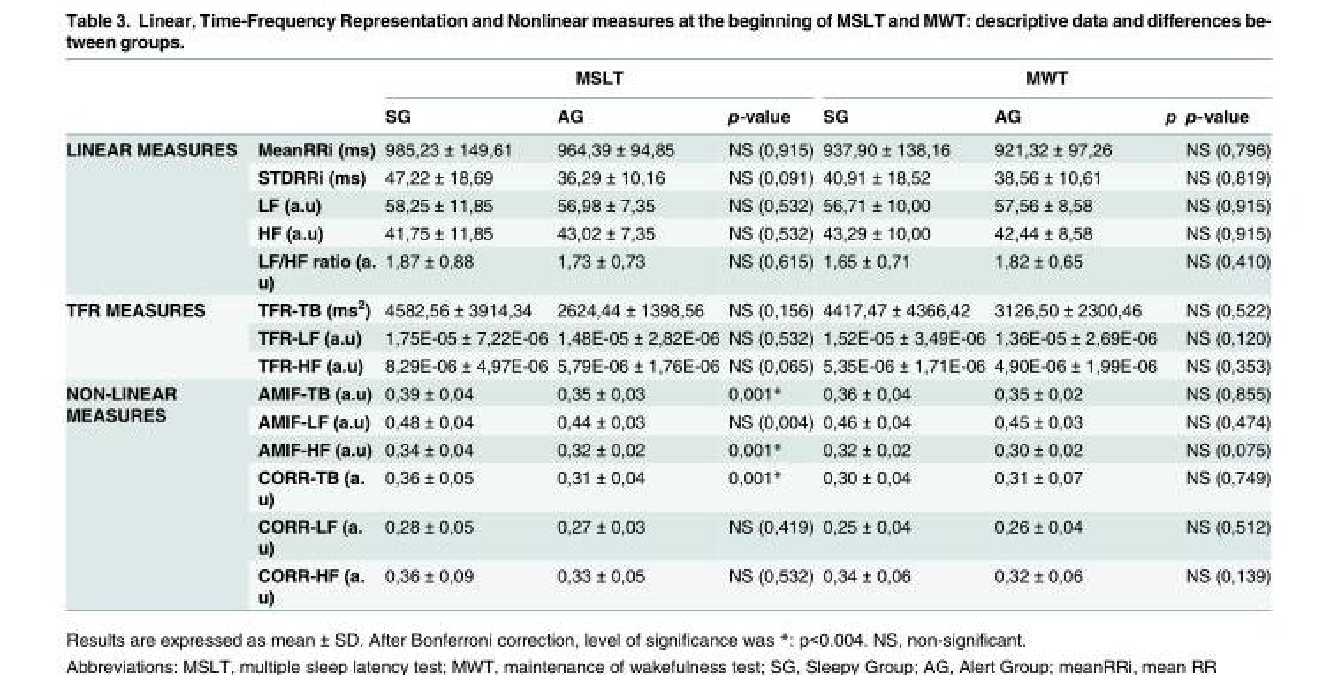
<table><thead><tr><td rowspan="2"></td><td rowspan="2"></td><td colspan="3">MSLT</td><td colspan="4">MWT</td></tr><tr><td>SG</td><td>AG</td><td>p-value</td><td>SG</td><td>AG</td><td>p</td><td>p-value</td></tr></thead><tbody><tr><td rowspan="5">LINEAR MEASURES</td><td>MeanRRi (ms)</td><td>985,23 ± 149,61</td><td>964,39 ± 94,85</td><td>NS (0,915)</td><td>937,90 ± 138,16</td><td>921,32 ± 97,26</td><td></td><td>NS (0,796)</td></tr><tr><td>STDRRi (ms)</td><td>47,22 ± 18,69</td><td>36,29 ± 10,16</td><td>NS (0,091)</td><td>40,91 ± 18,52</td><td>38,56 ± 10,61</td><td></td><td>NS (0,819)</td></tr><tr><td>LF (a.u)</td><td>58,25 ± 11,85</td><td>56,98 ± 7,35</td><td>NS (0,532)</td><td>56,71 ± 10,00</td><td>57,56 ± 8,58</td><td></td><td>NS (0,915)</td></tr><tr><td>HF (a.u)</td><td>41,75 ± 11,85</td><td>43,02 ± 7,35</td><td>NS (0,532)</td><td>43,29 ± 10,00</td><td>42,44 ± 8,58</td><td></td><td>NS (0,915)</td></tr><tr><td>LF/HF ratio (a. u)</td><td>1,87 ± 0,88</td><td>1,73 ± 0,73</td><td>NS (0,615)</td><td>1,65 ± 0,71</td><td>1,82 ± 0,65</td><td></td><td>NS (0,410)</td></tr><tr><td rowspan="3">TFR MEASURES</td><td>TFR-TB (ms<sup>2</sup>)</td><td>4582,56 ± 3914,34</td><td>2624,44 ± 1398,56</td><td>NS (0,156)</td><td>4417,47 ± 4366,42</td><td>3126,50 ± 2300,46</td><td></td><td>NS (0,522)</td></tr><tr><td>TFR-LF (a.u)</td><td>1,75E-05 ± 7,22E-06</td><td>1,48E-05 ± 2,82E-06</td><td>NS (0,532)</td><td>1,52E-05 ± 3,49E-06</td><td>1,36E-05 ± 2,69E-06</td><td></td><td>NS (0,120)</td></tr><tr><td>TFR-HF (a.u)</td><td>8,29E-06 ± 4,97E-06</td><td>5,79E-06 ± 1,76E-06</td><td>NS (0,065)</td><td>5,35E-06 ± 1,71E-06</td><td>4,90E-06 ± 1,99E-06</td><td></td><td>NS (0,353)</td></tr><tr><td rowspan="6">NON-LINEAR MEASURES</td><td>AMIF-TB (a.u)</td><td>0,39 ± 0,04</td><td>0,35 ± 0,03</td><td>0,001*</td><td>0,36 ± 0,04</td><td>0,35 ± 0,02</td><td></td><td>NS (0,855)</td></tr><tr><td>AMIF-LF (a.u)</td><td>0,48 ± 0,04</td><td>0,44 ± 0,03</td><td>NS (0,004)</td><td>0,46 ± 0,04</td><td>0,45 ± 0,03</td><td></td><td>NS (0,474)</td></tr><tr><td>AMIF-HF (a.u)</td><td>0,34 ± 0,04</td><td>0,32 ± 0,02</td><td>0,001*</td><td>0,32 ± 0,02</td><td>0,30 ± 0,02</td><td></td><td>NS (0,075)</td></tr><tr><td>CORR-TB (a. u)</td><td>0,36 ± 0,05</td><td>0,31 ± 0,04</td><td>0,001*</td><td>0,30 ± 0,04</td><td>0,31 ± 0,07</td><td></td><td>NS (0,749)</td></tr><tr><td>CORR-LF (a. u)</td><td>0,28 ± 0,05</td><td>0,27 ± 0,03</td><td>NS (0,419)</td><td>0,25 ± 0,04</td><td>0,26 ± 0,04</td><td></td><td>NS (0,512)</td></tr><tr><td>CORR-HF (a. u)</td><td>0,36 ± 0,09</td><td>0,33 ± 0,05</td><td>NS (0,532)</td><td>0,34 ± 0,06</td><td>0,32 ± 0,06</td><td></td><td>NS (0,139)</td></tr></tbody></table>